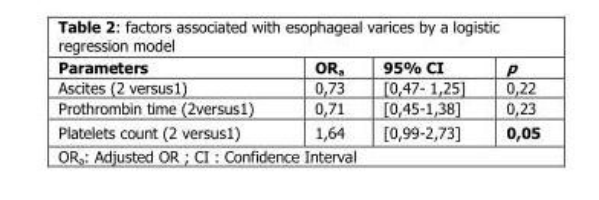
<table><thead><tr><td>Parameters</td><td>OR<sub>a</sub></td><td>95% CI</td><td>p</td></tr></thead><tbody><tr><td>Ascites (2 versus1)</td><td>0,73</td><td>[0,47- 1,25]</td><td>0,22</td></tr><tr><td>Prothrombin time (2versus1)</td><td>0,71</td><td>[0,45-1,38]</td><td>0,23</td></tr><tr><td>Platelets count (2 versus1)</td><td>1,64</td><td>[0,99-2,73]</td><td>0,05</td></tr></tbody></table>